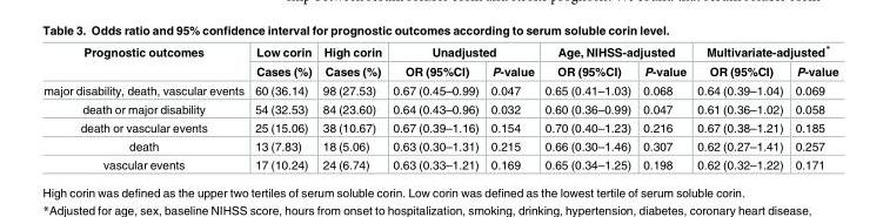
<table><thead><tr><td rowspan="2">Prognostic outcomes</td><td rowspan="2">Low corin Cases (%)</td><td rowspan="2">High corin Cases (%)</td><td colspan="2">Unadjusted</td><td colspan="2">Age, NIHSS-adjusted</td><td colspan="2">Multivariate-adjusted*</td></tr><tr><td>OR (95%CI)</td><td>P-value</td><td>OR (95%CI)</td><td>P-value</td><td>OR (95%CI)</td><td>P-value</td></tr></thead><tbody><tr><td>major disability, death, vascular events</td><td>60 (36.14)</td><td>98 (27.53)</td><td>0.67 (0.45–0.99)</td><td>0.047</td><td>0.65 (0.41–1.03)</td><td>0.068</td><td>0.64 (0.39–1.04)</td><td>0.069</td></tr><tr><td>death or major disability</td><td>54 (32.53)</td><td>84 (23.60)</td><td>0.64 (0.43–0.96)</td><td>0.032</td><td>0.60 (0.36–0.99)</td><td>0.047</td><td>0.61 (0.36–1.02)</td><td>0.058</td></tr><tr><td>death or vascular events</td><td>25 (15.06)</td><td>38 (10.67)</td><td>0.67 (0.39–1.16)</td><td>0.154</td><td>0.70 (0.40–1.23)</td><td>0.216</td><td>0.67 (0.38–1.21)</td><td>0.185</td></tr><tr><td>death</td><td>13 (7.83)</td><td>18 (5.06)</td><td>0.63 (0.30–1.31)</td><td>0.215</td><td>0.66 (0.30–1.46)</td><td>0.307</td><td>0.62 (0.27–1.41)</td><td>0.257</td></tr><tr><td>vascular events</td><td>17 (10.24)</td><td>24 (6.74)</td><td>0.63 (0.33–1.21)</td><td>0.169</td><td>0.65 (0.34–1.25)</td><td>0.198</td><td>0.62 (0.32–1.22)</td><td>0.171</td></tr></tbody></table>